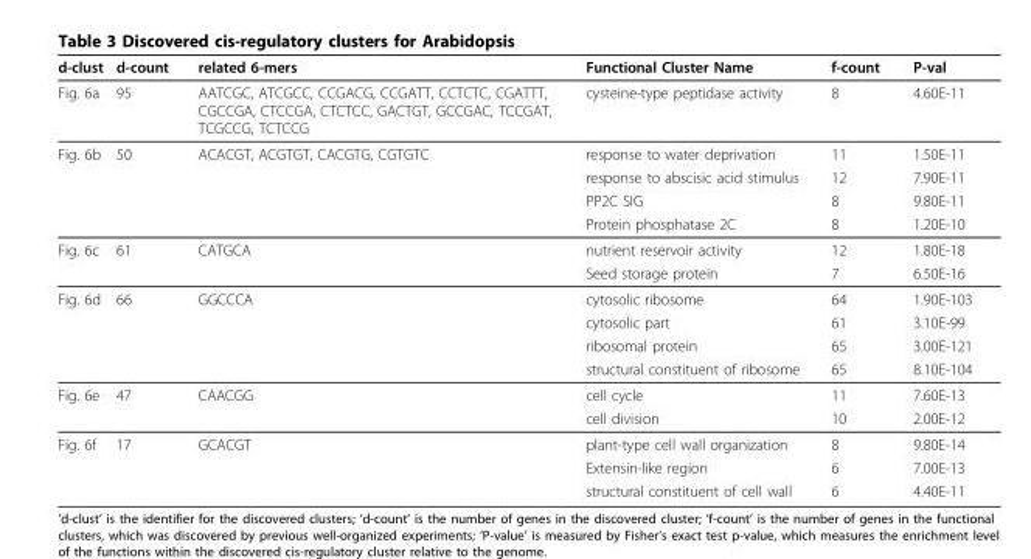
<table><thead><tr><td>d-clust</td><td>d-count</td><td>related 6-mers</td><td>Functional Cluster Name</td><td>f-count</td><td>P-val</td></tr></thead><tbody><tr><td>Fig. 6a</td><td>95</td><td>AATCGC, ATCGCC, CCGACG, CCGATT, CCTCTC, CGATTT, CGCCGA, CTCCGA, CTCTCC, GACTGT, GCCGAC, TCCGAT, TCGCCG, TCTCCG</td><td>cysteine-type peptidase activity</td><td>8</td><td>4.60E-11</td></tr><tr><td rowspan="4">Fig. 6b</td><td>50</td><td>ACACGT, ACGTGT, CACGTG, CGTGTC</td><td>response to water deprivation</td><td>11</td><td>1.50E-11</td></tr><tr><td></td><td></td><td>response to abscisic acid stimulus</td><td>12</td><td>7.90E-11</td></tr><tr><td></td><td></td><td>PP2C SIG</td><td>8</td><td>9.80E-11</td></tr><tr><td></td><td></td><td>Protein phosphatase 2C</td><td>8</td><td>1.20E-10</td></tr><tr><td rowspan="2">Fig. 6c</td><td>61</td><td>CATGCA</td><td>nutrient reservoir activity</td><td>12</td><td>1.80E-18</td></tr><tr><td></td><td></td><td>Seed storage protein</td><td>7</td><td>6.50E-16</td></tr><tr><td rowspan="4">Fig. 6d</td><td>66</td><td>GGCCCA</td><td>cytosolic ribosome</td><td>64</td><td>1.90E-103</td></tr><tr><td></td><td></td><td>cytosolic part</td><td>61</td><td>3.10E-99</td></tr><tr><td></td><td></td><td>ribosomal protein</td><td>65</td><td>3.00E-121</td></tr><tr><td></td><td></td><td>structural constituent of ribosome</td><td>65</td><td>8.10E-104</td></tr><tr><td rowspan="2">Fig. 6e</td><td>47</td><td>CAACGG</td><td>cell cycle</td><td>11</td><td>7.60E-13</td></tr><tr><td></td><td></td><td>cell division</td><td>10</td><td>2.00E-12</td></tr><tr><td rowspan="3">Fig. 6f</td><td>17</td><td>GCACGT</td><td>plant-type cell wall organization</td><td>8</td><td>9.80E-14</td></tr><tr><td></td><td></td><td>Extensin-like region</td><td>6</td><td>7.00E-13</td></tr><tr><td></td><td></td><td>structural constituent of cell wall</td><td>6</td><td>4.40E-11</td></tr></tbody></table>